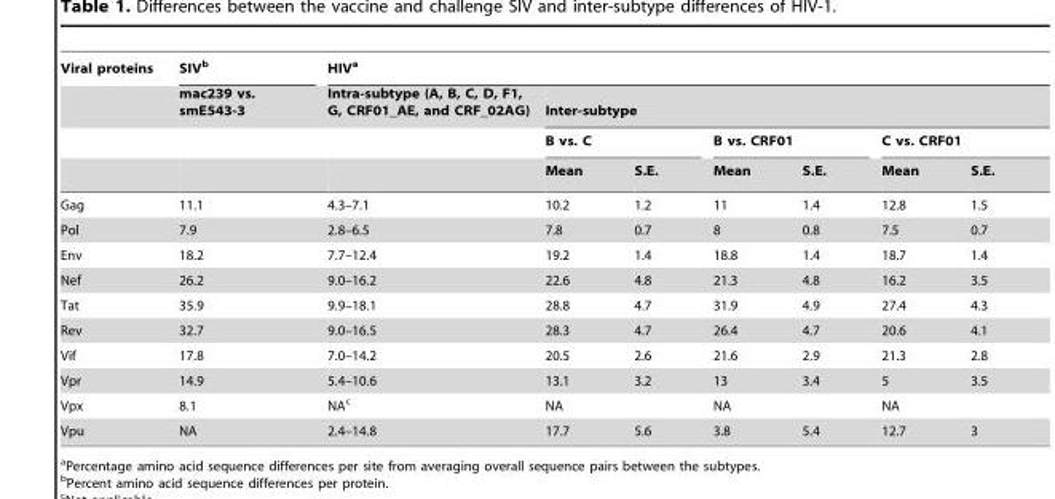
<table><thead><tr><td rowspan="4">Viral proteins</td><td rowspan="4">SIV<sup>b</sup> mac239 vs. smE543-3</td><td colspan="7">HIV<sup>a</sup></td></tr><tr><td rowspan="3">Intra-subtype (A, B, C, D, F1, G, CRF01_AE, and CRF_02AG)</td><td colspan="6">Inter-subtype</td></tr><tr><td colspan="2">B vs. C</td><td colspan="2">B vs. CRF01</td><td colspan="2">C vs. CRF01</td></tr><tr><td>Mean</td><td>S.E.</td><td>Mean</td><td>S.E.</td><td>Mean</td><td>S.E.</td></tr></thead><tbody><tr><td>Gag</td><td>11.1</td><td>4.3–7.1</td><td>10.2</td><td>1.2</td><td>11</td><td>1.4</td><td>12.8</td><td>1.5</td></tr><tr><td>Pol</td><td>7.9</td><td>2.8–6.5</td><td>7.8</td><td>0.7</td><td>8</td><td>0.8</td><td>7.5</td><td>0.7</td></tr><tr><td>Env</td><td>18.2</td><td>7.7–12.4</td><td>19.2</td><td>1.4</td><td>18.8</td><td>1.4</td><td>18.7</td><td>1.4</td></tr><tr><td>Nef</td><td>26.2</td><td>9.0–16.2</td><td>22.6</td><td>4.8</td><td>21.3</td><td>4.8</td><td>16.2</td><td>3.5</td></tr><tr><td>Tat</td><td>35.9</td><td>9.9–18.1</td><td>28.8</td><td>4.7</td><td>31.9</td><td>4.9</td><td>27.4</td><td>4.3</td></tr><tr><td>Rev</td><td>32.7</td><td>9.0–16.5</td><td>28.3</td><td>4.7</td><td>26.4</td><td>4.7</td><td>20.6</td><td>4.1</td></tr><tr><td>Vif</td><td>17.8</td><td>7.0–14.2</td><td>20.5</td><td>2.6</td><td>21.6</td><td>2.9</td><td>21.3</td><td>2.8</td></tr><tr><td>Vpr</td><td>14.9</td><td>5.4–10.6</td><td>13.1</td><td>3.2</td><td>13</td><td>3.4</td><td>5</td><td>3.5</td></tr><tr><td>Vpx</td><td>8.1</td><td>NA<sup>c</sup></td><td>NA</td><td></td><td>NA</td><td></td><td>NA</td><td></td></tr><tr><td>Vpu</td><td>NA</td><td>2.4–14.8</td><td>17.7</td><td>5.6</td><td>3.8</td><td>5.4</td><td>12.7</td><td>3</td></tr></tbody></table>